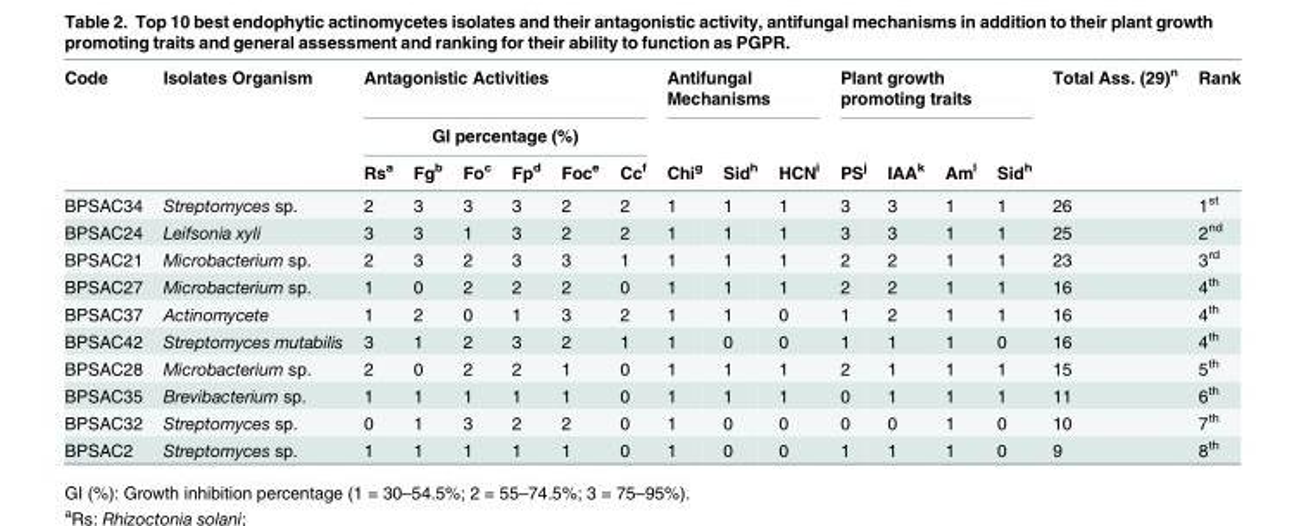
<table><thead><tr><td rowspan="3">Code</td><td rowspan="3">Isolates Organism</td><td rowspan="2" colspan="6">Antagonistic Activities GI percentage (%)</td><td colspan="3">Antifungal Mechanisms</td><td colspan="4">Plant growth promoting traits</td><td rowspan="3">Total Ass. (29)n</td><td rowspan="3">Rank</td></tr><tr><td rowspan="2">Chig</td><td rowspan="2">Sidh</td><td rowspan="2">HCNi</td><td rowspan="2">PSj</td><td rowspan="2">IAAk</td><td rowspan="2">Aml</td><td rowspan="2">Sidh</td></tr><tr><td>Rsa</td><td>Fgb</td><td>Foc</td><td>Fpd</td><td>Foce</td><td>Ccf</td></tr></thead><tbody><tr><td>BPSAC34</td><td>Streptomyces sp.</td><td>2</td><td>3</td><td>3</td><td>3</td><td>2</td><td>2</td><td>1</td><td>1</td><td>1</td><td>3</td><td>3</td><td>1</td><td>1</td><td>26</td><td>1st</td></tr><tr><td>BPSAC24</td><td>Leifsonia xyli</td><td>3</td><td>3</td><td>1</td><td>3</td><td>2</td><td>2</td><td>1</td><td>1</td><td>1</td><td>3</td><td>3</td><td>1</td><td>1</td><td>25</td><td>2nd</td></tr><tr><td>BPSAC21</td><td>Microbacterium sp.</td><td>2</td><td>3</td><td>2</td><td>3</td><td>3</td><td>1</td><td>1</td><td>1</td><td>1</td><td>2</td><td>2</td><td>1</td><td>1</td><td>23</td><td>3rd</td></tr><tr><td>BPSAC27</td><td>Microbacterium sp.</td><td>1</td><td>0</td><td>2</td><td>2</td><td>2</td><td>0</td><td>1</td><td>1</td><td>1</td><td>2</td><td>2</td><td>1</td><td>1</td><td>16</td><td>4th</td></tr><tr><td>BPSAC37</td><td>Actinomycete</td><td>1</td><td>2</td><td>0</td><td>1</td><td>3</td><td>2</td><td>1</td><td>1</td><td>0</td><td>1</td><td>2</td><td>1</td><td>1</td><td>16</td><td>4th</td></tr><tr><td>BPSAC42</td><td>Streptomyces mutabilis</td><td>3</td><td>1</td><td>2</td><td>3</td><td>2</td><td>1</td><td>1</td><td>0</td><td>0</td><td>1</td><td>1</td><td>1</td><td>0</td><td>16</td><td>4th</td></tr><tr><td>BPSAC28</td><td>Microbacterium sp.</td><td>2</td><td>0</td><td>2</td><td>2</td><td>1</td><td>0</td><td>1</td><td>1</td><td>1</td><td>2</td><td>1</td><td>1</td><td>1</td><td>15</td><td>5th</td></tr><tr><td>BPSAC35</td><td>Brevibacterium sp.</td><td>1</td><td>1</td><td>1</td><td>1</td><td>1</td><td>0</td><td>1</td><td>1</td><td>1</td><td>0</td><td>1</td><td>1</td><td>1</td><td>11</td><td>6th</td></tr><tr><td>BPSAC32</td><td>Streptomyces sp.</td><td>0</td><td>1</td><td>3</td><td>2</td><td>2</td><td>0</td><td>1</td><td>0</td><td>0</td><td>0</td><td>0</td><td>1</td><td>0</td><td>10</td><td>7th</td></tr><tr><td>BPSAC2</td><td>Streptomyces sp.</td><td>1</td><td>1</td><td>1</td><td>1</td><td>1</td><td>0</td><td>1</td><td>0</td><td>0</td><td>1</td><td>1</td><td>1</td><td>0</td><td>9</td><td>8th</td></tr></tbody></table>